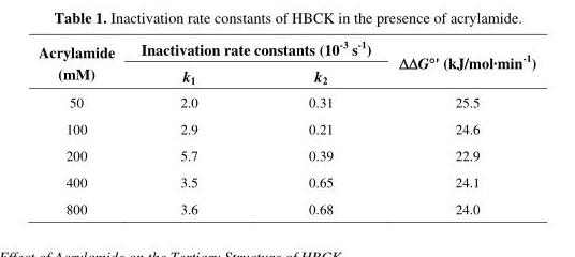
<table><thead><tr><td rowspan="2">Acrylamide (mM)</td><td colspan="2">Inactivation rate constants (10<sup>-3</sup> s<sup>-1</sup>)</td><td rowspan="2">ΔΔG°&#x27; (kJ/mol·min<sup>-1</sup>)</td></tr><tr><td>k<sub>1</sub></td><td>k<sub>2</sub></td></tr></thead><tbody><tr><td>50</td><td>2.0</td><td>0.31</td><td>25.5</td></tr><tr><td>100</td><td>2.9</td><td>0.21</td><td>24.6</td></tr><tr><td>200</td><td>5.7</td><td>0.39</td><td>22.9</td></tr><tr><td>400</td><td>3.5</td><td>0.65</td><td>24.1</td></tr><tr><td>800</td><td>3.6</td><td>0.68</td><td>24.0</td></tr></tbody></table>